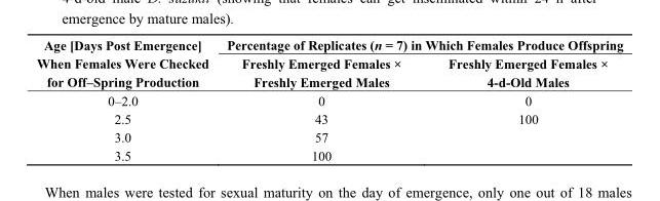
<table><thead><tr><td rowspan="2">Age [Days Post Emergence] When Females Were Checked for Off–Spring Production</td><td colspan="2">Percentage of Replicates (n = 7) in Which Females Produce Offspring</td></tr><tr><td>Freshly Emerged Females × Freshly Emerged Males</td><td>Freshly Emerged Females × 4-d-Old Males</td></tr></thead><tbody><tr><td>0–2.0</td><td>0</td><td>0</td></tr><tr><td>2.5</td><td>43</td><td>100</td></tr><tr><td>3.0</td><td>57</td><td></td></tr><tr><td>3.5</td><td>100</td><td></td></tr></tbody></table>